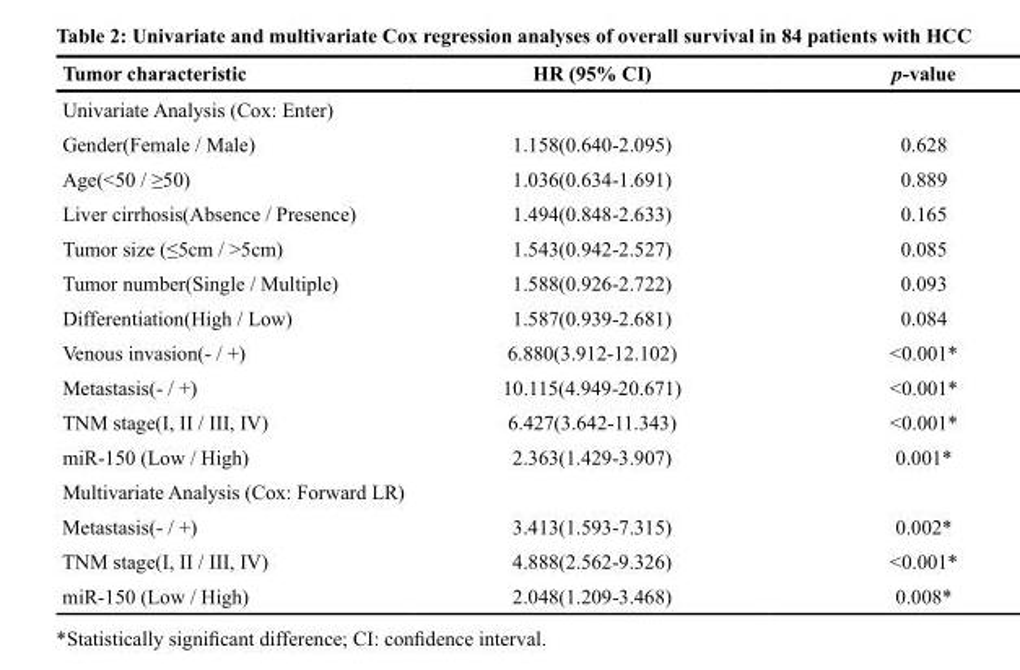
<table><thead><tr><td>Tumor characteristic</td><td>HR (95% CI)</td><td>p-value</td></tr></thead><tbody><tr><td colspan="3">Univariate Analysis (Cox: Enter)</td></tr><tr><td>Gender(Female / Male)</td><td>1.158(0.640-2.095)</td><td>0.628</td></tr><tr><td>Age(&lt;50 / ≥50)</td><td>1.036(0.634-1.691)</td><td>0.889</td></tr><tr><td>Liver cirrhosis(Absence / Presence)</td><td>1.494(0.848-2.633)</td><td>0.165</td></tr><tr><td>Tumor size (≤5cm / &gt;5cm)</td><td>1.543(0.942-2.527)</td><td>0.085</td></tr><tr><td>Tumor number(Single / Multiple)</td><td>1.588(0.926-2.722)</td><td>0.093</td></tr><tr><td>Differentiation(High / Low)</td><td>1.587(0.939-2.681)</td><td>0.084</td></tr><tr><td>Venous invasion(- / +)</td><td>6.880(3.912-12.102)</td><td>&lt;0.001*</td></tr><tr><td>Metastasis(- / +)</td><td>10.115(4.949-20.671)</td><td>&lt;0.001*</td></tr><tr><td>TNM stage(I, II / III, IV)</td><td>6.427(3.642-11.343)</td><td>&lt;0.001*</td></tr><tr><td>miR-150 (Low / High)</td><td>2.363(1.429-3.907)</td><td>0.001*</td></tr><tr><td colspan="3">Multivariate Analysis (Cox: Forward LR)</td></tr><tr><td>Metastasis(- / +)</td><td>3.413(1.593-7.315)</td><td>0.002*</td></tr><tr><td>TNM stage(I, II / III, IV)</td><td>4.888(2.562-9.326)</td><td>&lt;0.001*</td></tr><tr><td>miR-150 (Low / High)</td><td>2.048(1.209-3.468)</td><td>0.008*</td></tr></tbody></table>